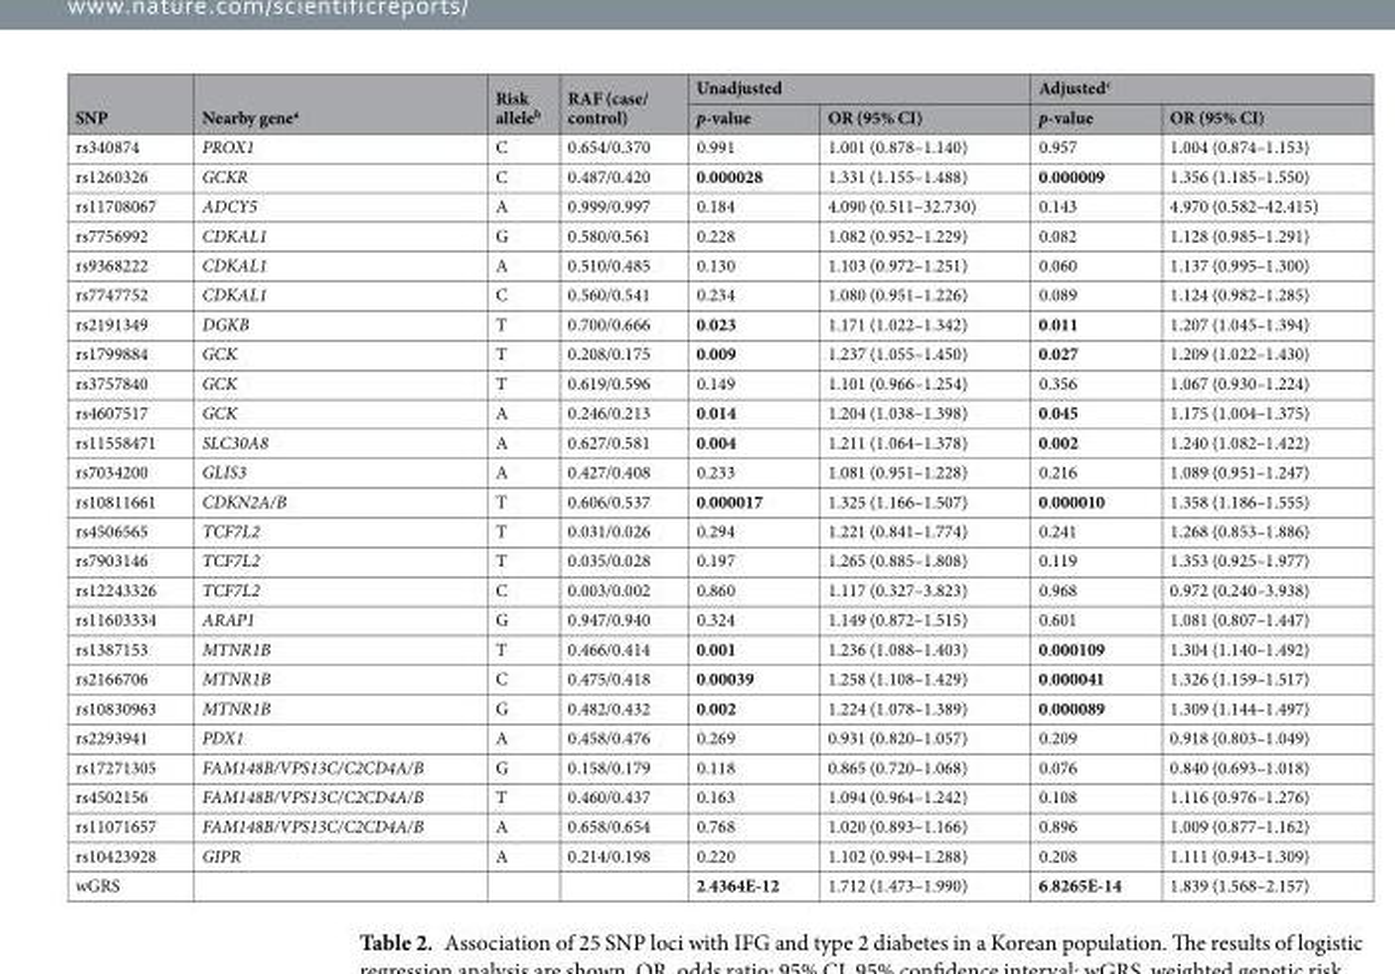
<table><thead><tr><td rowspan="2">SNP</td><td rowspan="2">Nearby gene<sup>a</sup></td><td rowspan="2">Risk allele<sup>b</sup></td><td rowspan="2">RAF (case/ control)</td><td colspan="2">Unadjusted</td><td colspan="2">Adjusted<sup>c</sup></td></tr><tr><td>p-value</td><td>OR (95% CI)</td><td>p-value</td><td>OR (95% CI)</td></tr></thead><tbody><tr><td>rs340874</td><td>PROX1</td><td>C</td><td>0.654/0.370</td><td>0.991</td><td>1.001 (0.878–1.140)</td><td>0.957</td><td>1.004 (0.874–1.153)</td></tr><tr><td>rs1260326</td><td>GCKR</td><td>C</td><td>0.487/0.420</td><td>0.000028</td><td>1.331 (1.155–1.488)</td><td>0.000009</td><td>1.356 (1.185–1.550)</td></tr><tr><td>rs11708067</td><td>ADCY5</td><td>A</td><td>0.999/0.997</td><td>0.184</td><td>4.090 (0.511–32.730)</td><td>0.143</td><td>4.970 (0.582–42.415)</td></tr><tr><td>rs7756992</td><td>CDKAL1</td><td>G</td><td>0.580/0.561</td><td>0.228</td><td>1.082 (0.952–1.229)</td><td>0.082</td><td>1.128 (0.985–1.291)</td></tr><tr><td>rs9368222</td><td>CDKAL1</td><td>A</td><td>0.510/0.485</td><td>0.130</td><td>1.103 (0.972–1.251)</td><td>0.060</td><td>1.137 (0.995–1.300)</td></tr><tr><td>rs7747752</td><td>CDKAL1</td><td>C</td><td>0.560/0.541</td><td>0.234</td><td>1.080 (0.951–1.226)</td><td>0.089</td><td>1.124 (0.982–1.285)</td></tr><tr><td>rs2191349</td><td>DGKB</td><td>T</td><td>0.700/0.666</td><td>0.023</td><td>1.171 (1.022–1.342)</td><td>0.011</td><td>1.207 (1.045–1.394)</td></tr><tr><td>rs1799884</td><td>GCK</td><td>T</td><td>0.208/0.175</td><td>0.009</td><td>1.237 (1.055–1.450)</td><td>0.027</td><td>1.209 (1.022–1.430)</td></tr><tr><td>rs3757840</td><td>GCK</td><td>T</td><td>0.619/0.596</td><td>0.149</td><td>1.101 (0.966–1.254)</td><td>0.356</td><td>1.067 (0.930–1.224)</td></tr><tr><td>rs4607517</td><td>GCK</td><td>A</td><td>0.246/0.213</td><td>0.014</td><td>1.204 (1.038–1.398)</td><td>0.045</td><td>1.175 (1.004–1.375)</td></tr><tr><td>rs11558471</td><td>SLC30A8</td><td>A</td><td>0.627/0.581</td><td>0.004</td><td>1.211 (1.064–1.378)</td><td>0.002</td><td>1.240 (1.082–1.422)</td></tr><tr><td>rs7034200</td><td>GLIS3</td><td>A</td><td>0.427/0.408</td><td>0.233</td><td>1.081 (0.951–1.228)</td><td>0.216</td><td>1.089 (0.951–1.247)</td></tr><tr><td>rs10811661</td><td>CDKN2A/B</td><td>T</td><td>0.606/0.537</td><td>0.000017</td><td>1.325 (1.166–1.507)</td><td>0.000010</td><td>1.358 (1.186–1.555)</td></tr><tr><td>rs4506565</td><td>TCF7L2</td><td>T</td><td>0.031/0.026</td><td>0.294</td><td>1.221 (0.841–1.774)</td><td>0.241</td><td>1.268 (0.853–1.886)</td></tr><tr><td>rs7903146</td><td>TCF7L2</td><td>T</td><td>0.035/0.028</td><td>0.197</td><td>1.265 (0.885–1.808)</td><td>0.119</td><td>1.353 (0.925–1.977)</td></tr><tr><td>rs12243326</td><td>TCF7L2</td><td>C</td><td>0.003/0.002</td><td>0.860</td><td>1.117 (0.327–3.823)</td><td>0.968</td><td>0.972 (0.240–3.938)</td></tr><tr><td>rs11603334</td><td>ARAP1</td><td>G</td><td>0.947/0.940</td><td>0.324</td><td>1.149 (0.872–1.515)</td><td>0.601</td><td>1.081 (0.807–1.447)</td></tr><tr><td>rs1387153</td><td>MTNR1B</td><td>T</td><td>0.466/0.414</td><td>0.001</td><td>1.236 (1.088–1.403)</td><td>0.000109</td><td>1.304 (1.140–1.492)</td></tr><tr><td>rs2166706</td><td>MTNR1B</td><td>C</td><td>0.475/0.418</td><td>0.00039</td><td>1.258 (1.108–1.429)</td><td>0.000041</td><td>1.326 (1.159–1.517)</td></tr><tr><td>rs10830963</td><td>MTNR1B</td><td>G</td><td>0.482/0.432</td><td>0.002</td><td>1.224 (1.078–1.389)</td><td>0.000089</td><td>1.309 (1.144–1.497)</td></tr><tr><td>rs2293941</td><td>PDX1</td><td>A</td><td>0.458/0.476</td><td>0.269</td><td>0.931 (0.820–1.057)</td><td>0.209</td><td>0.918 (0.803–1.049)</td></tr><tr><td>rs17271305</td><td>FAM148B/VPS13C/C2CD4A/B</td><td>G</td><td>0.158/0.179</td><td>0.118</td><td>0.865 (0.720–1.068)</td><td>0.076</td><td>0.840 (0.693–1.018)</td></tr><tr><td>rs4502156</td><td>FAM148B/VPS13C/C2CD4A/B</td><td>T</td><td>0.460/0.437</td><td>0.163</td><td>1.094 (0.964–1.242)</td><td>0.108</td><td>1.116 (0.976–1.276)</td></tr><tr><td>rs11071657</td><td>FAM148B/VPS13C/C2CD4A/B</td><td>A</td><td>0.658/0.654</td><td>0.768</td><td>1.020 (0.893–1.166)</td><td>0.896</td><td>1.009 (0.877–1.162)</td></tr><tr><td>rs10423928</td><td>GIPR</td><td>A</td><td>0.214/0.198</td><td>0.220</td><td>1.102 (0.994–1.288)</td><td>0.208</td><td>1.111 (0.943–1.309)</td></tr><tr><td>wGRS</td><td></td><td></td><td></td><td>2.4364E-12</td><td>1.712 (1.473–1.990)</td><td>6.8265E-14</td><td>1.839 (1.568–2.157)</td></tr></tbody></table>